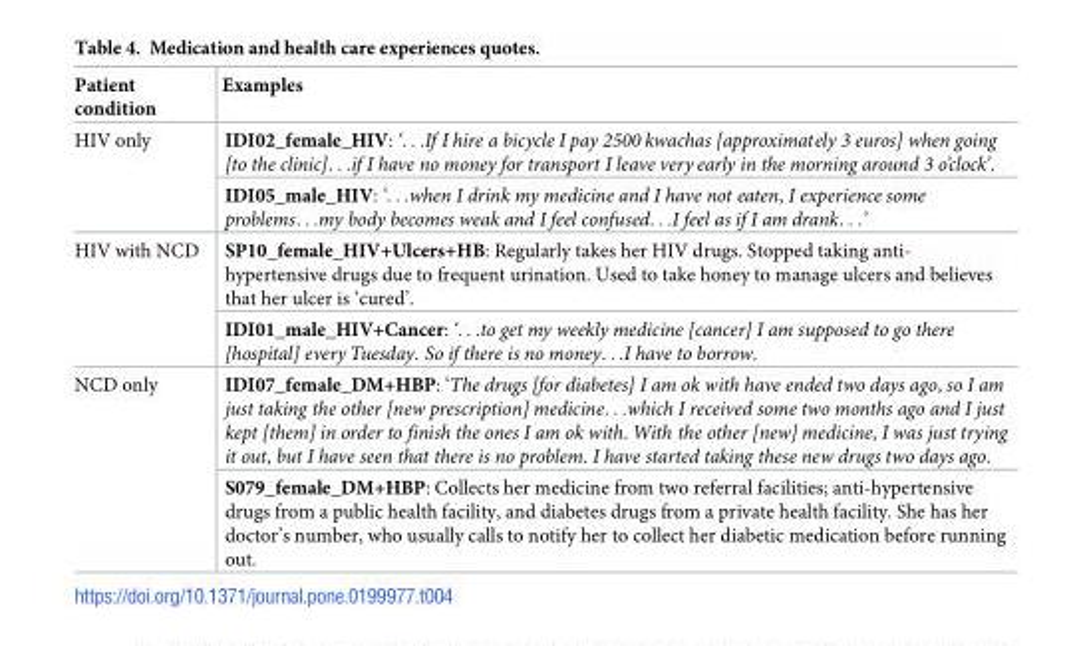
<table><thead><tr><td>Patient condition</td><td>Examples</td></tr></thead><tbody><tr><td rowspan="2">HIV only</td><td>IDI02_female_HIV: ‘. . .If I hire a bicycle I pay 2500 kwachas [approximately 3 euros] when going [to the clinic]. . .if I have no money for transport I leave very early in the morning around 3 o’clock’.</td></tr><tr><td>IDI05_male_HIV: ‘. . .when I drink my medicine and I have not eaten, I experience some problems. . .my body becomes weak and I feel confused. . .I feel as if I am drank. . .’</td></tr><tr><td rowspan="2">HIV with NCD</td><td>SP10_female_HIV+Ulcers+HB: Regularly takes her HIV drugs. Stopped taking anti- hypertensive drugs due to frequent urination. Used to take honey to manage ulcers and believes that her ulcer is ‘cured’.</td></tr><tr><td>IDI01_male_HIV+Cancer: ‘. . .to get my weekly medicine [cancer] I am supposed to go there [hospital] every Tuesday. So if there is no money. . .I have to borrow.</td></tr><tr><td rowspan="2">NCD only</td><td>IDI07_female_DM+HBP: ‘The drugs [for diabetes] I am ok with have ended two days ago, so I am just taking the other [new prescription] medicine. . .which I received some two months ago and I just kept [them] in order to finish the ones I am ok with. With the other [new] medicine, I was just trying it out, but I have seen that there is no problem. I have started taking these new drugs two days ago.</td></tr><tr><td>S079_female_DM+HBP: Collects her medicine from two referral facilities; anti-hypertensive drugs from a public health facility, and diabetes drugs from a private health facility. She has her doctor’s number, who usually calls to notify her to collect her diabetic medication before running out.</td></tr></tbody></table>